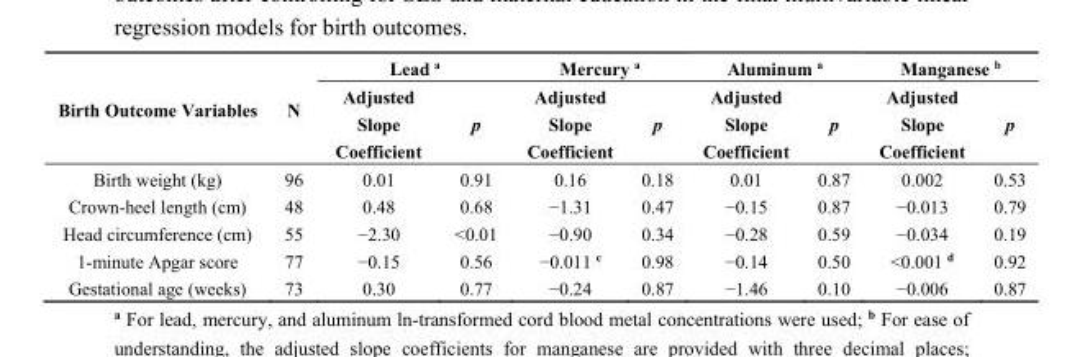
<table><thead><tr><td rowspan="2">Birth Outcome Variables</td><td rowspan="2">N</td><td colspan="2">Lead <sup>a</sup></td><td colspan="2">Mercury <sup>a</sup></td><td colspan="2">Aluminum <sup>a</sup></td><td colspan="2">Manganese <sup>b</sup></td></tr><tr><td>Adjusted Slope Coefficient</td><td>p</td><td>Adjusted Slope Coefficient</td><td>p</td><td>Adjusted Slope Coefficient</td><td>p</td><td>Adjusted Slope Coefficient</td><td>p</td></tr></thead><tbody><tr><td>Birth weight (kg)</td><td>96</td><td>0.01</td><td>0.91</td><td>0.16</td><td>0.18</td><td>0.01</td><td>0.87</td><td>0.002</td><td>0.53</td></tr><tr><td>Crown-heel length (cm)</td><td>48</td><td>0.48</td><td>0.68</td><td>−1.31</td><td>0.47</td><td>−0.15</td><td>0.87</td><td>−0.013</td><td>0.79</td></tr><tr><td>Head circumference (cm)</td><td>55</td><td>−2.30</td><td>&lt;0.01</td><td>−0.90</td><td>0.34</td><td>−0.28</td><td>0.59</td><td>−0.034</td><td>0.19</td></tr><tr><td>1-minute Apgar score</td><td>77</td><td>−0.15</td><td>0.56</td><td>−0.011 <sup>c</sup></td><td>0.98</td><td>−0.14</td><td>0.50</td><td>&lt;0.001 <sup>d</sup></td><td>0.92</td></tr><tr><td>Gestational age (weeks)</td><td>73</td><td>0.30</td><td>0.77</td><td>−0.24</td><td>0.87</td><td>−1.46</td><td>0.10</td><td>−0.006</td><td>0.87</td></tr></tbody></table>